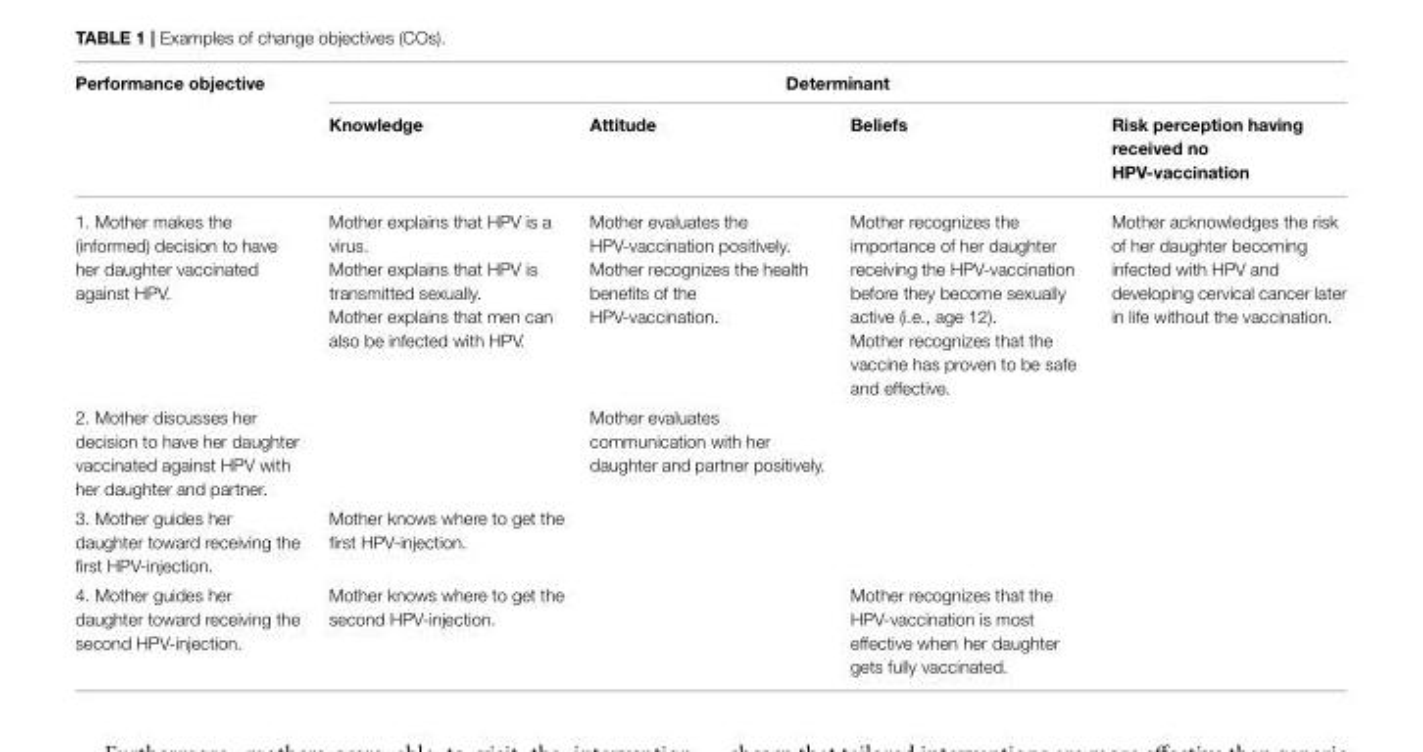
<table><thead><tr><td rowspan="2">Performance objective</td><td colspan="4">Determinant</td></tr><tr><td>Knowledge</td><td>Attitude</td><td>Beliefs</td><td>Risk perception having received no HPV-vaccination</td></tr></thead><tbody><tr><td>1. Mother makes the (informed) decision to have her daughter vaccinated against HPV.</td><td>Mother explains that HPV is a virus. Mother explains that HPV is transmitted sexually. Mother explains that men can also be infected with HPV.</td><td>Mother evaluates the HPV-vaccination positively. Mother recognizes the health benefits of the HPV-vaccination.</td><td>Mother recognizes the importance of her daughter receiving the HPV-vaccination before they become sexually active (i.e., age 12). Mother recognizes that the vaccine has proven to be safe and effective.</td><td>Mother acknowledges the risk of her daughter becoming infected with HPV and developing cervical cancer later in life without the vaccination.</td></tr><tr><td>2. Mother discusses her decision to have her daughter vaccinated against HPV with her daughter and partner.</td><td></td><td>Mother evaluates communication with her daughter and partner positively.</td><td></td><td></td></tr><tr><td>3. Mother guides her daughter toward receiving the first HPV-injection.</td><td>Mother knows where to get the first HPV-injection.</td><td></td><td></td><td></td></tr><tr><td>4. Mother guides her daughter toward receiving the second HPV-injection.</td><td>Mother knows where to get the second HPV-injection.</td><td></td><td>Mother recognizes that the HPV-vaccination is most effective when her daughter gets fully vaccinated.</td><td></td></tr></tbody></table>